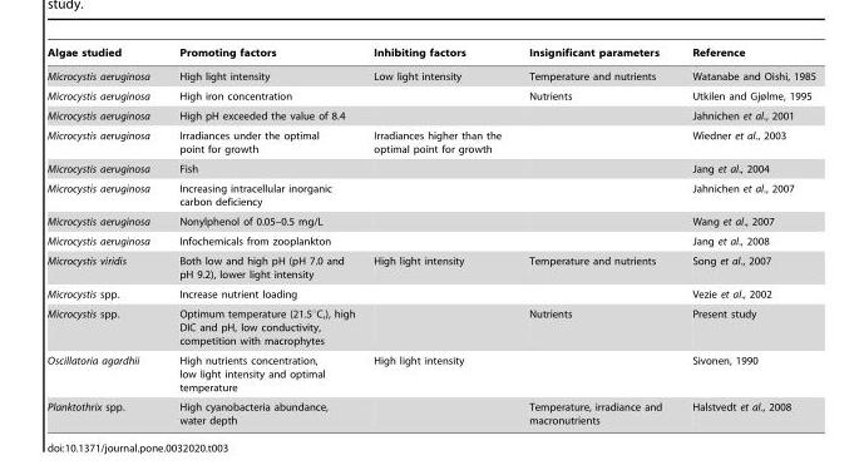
<table><thead><tr><td>Algae studied</td><td>Promoting factors</td><td>Inhibiting factors</td><td>Insignificant parameters</td><td>Reference</td></tr></thead><tbody><tr><td>Microcystis aeruginosa</td><td>High light intensity</td><td>Low light intensity</td><td>Temperature and nutrients</td><td>Watanabe and Oishi, 1985</td></tr><tr><td>Microcystis aeruginosa</td><td>High iron concentration</td><td></td><td>Nutrients</td><td>Utkilen and Gjølme, 1995</td></tr><tr><td>Microcystis aeruginosa</td><td>High pH exceeded the value of 8.4</td><td></td><td></td><td>Jahnichen et al., 2001</td></tr><tr><td>Microcystis aeruginosa</td><td>Irradiances under the optimal point for growth</td><td>Irradiances higher than the optimal point for growth</td><td></td><td>Wiedner et al., 2003</td></tr><tr><td>Microcystis aeruginosa</td><td>Fish</td><td></td><td></td><td>Jang et al., 2004</td></tr><tr><td>Microcystis aeruginosa</td><td>Increasing intracellular inorganic carbon deficiency</td><td></td><td></td><td>Jahnichen et al., 2007</td></tr><tr><td>Microcystis aeruginosa</td><td>Nonylphenol of 0.05–0.5 mg/L</td><td></td><td></td><td>Wang et al., 2007</td></tr><tr><td>Microcystis aeruginosa</td><td>Infochemicals from zooplankton</td><td></td><td></td><td>Jang et al., 2008</td></tr><tr><td>Microcystis viridis</td><td>Both low and high pH (pH 7.0 and pH 9.2), lower light intensity</td><td>High light intensity</td><td>Temperature and nutrients</td><td>Song et al., 2007</td></tr><tr><td>Microcystis spp.</td><td>Increase nutrient loading</td><td></td><td></td><td>Vezie et al., 2002</td></tr><tr><td>Microcystis spp.</td><td>Optimum temperature (21.5°C,), high DIC and pH, low conductivity, competition with macrophytes</td><td></td><td>Nutrients</td><td>Present study</td></tr><tr><td>Oscillatoria agardhii</td><td>High nutrients concentration, low light intensity and optimal temperature</td><td>High light intensity</td><td></td><td>Sivonen, 1990</td></tr><tr><td>Planktothrix spp.</td><td>High cyanobacteria abundance, water depth</td><td></td><td>Temperature, irradiance and macronutrients</td><td>Halstvedt et al., 2008</td></tr></tbody></table>